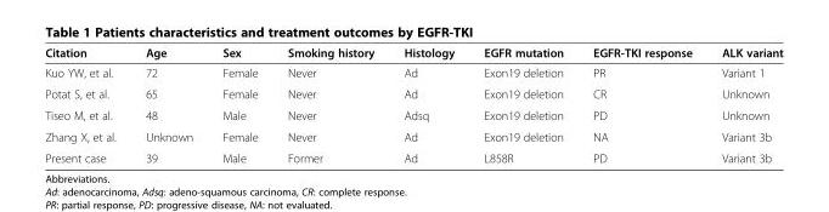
<table><thead><tr><td>Citation</td><td>Age</td><td>Sex</td><td>Smoking history</td><td>Histology</td><td>EGFR mutation</td><td>EGFR-TKI response</td><td>ALK variant</td></tr></thead><tbody><tr><td>Kuo YW, et al.</td><td>72</td><td>Female</td><td>Never</td><td>Ad</td><td>Exon19 deletion</td><td>PR</td><td>Variant 1</td></tr><tr><td>Potat S, et al.</td><td>65</td><td>Female</td><td>Never</td><td>Ad</td><td>Exon19 deletion</td><td>CR</td><td>Unknown</td></tr><tr><td>Tiseo M, et al.</td><td>48</td><td>Male</td><td>Never</td><td>Adsq</td><td>Exon19 deletion</td><td>PD</td><td>Unknown</td></tr><tr><td>Zhang X, et al.</td><td>Unknown</td><td>Female</td><td>Never</td><td>Ad</td><td>Exon19 deletion</td><td>NA</td><td>Variant 3b</td></tr><tr><td>Present case</td><td>39</td><td>Male</td><td>Former</td><td>Ad</td><td>L858R</td><td>PD</td><td>Variant 3b</td></tr></tbody></table>